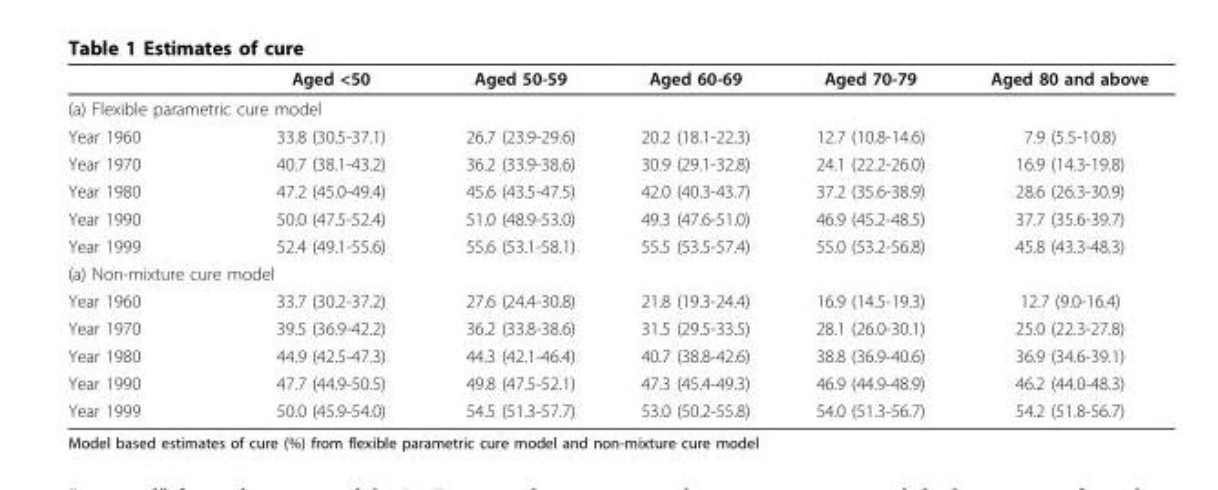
<table><thead><tr><td></td><td>Aged &lt;50</td><td>Aged 50-59</td><td>Aged 60-69</td><td>Aged 70-79</td><td>Aged 80 and above</td></tr></thead><tbody><tr><td colspan="6">(a) Flexible parametric cure model</td></tr><tr><td>Year 1960</td><td>33.8 (30.5-37.1)</td><td>26.7 (23.9-29.6)</td><td>20.2 (18.1-22.3)</td><td>12.7 (10.8-14.6)</td><td>7.9 (5.5-10.8)</td></tr><tr><td>Year 1970</td><td>40.7 (38.1-43.2)</td><td>36.2 (33.9-38.6)</td><td>30.9 (29.1-32.8)</td><td>24.1 (22.2-26.0)</td><td>16.9 (14.3-19.8)</td></tr><tr><td>Year 1980</td><td>47.2 (45.0-49.4)</td><td>45.6 (43.5-47.5)</td><td>42.0 (40.3-43.7)</td><td>37.2 (35.6-38.9)</td><td>28.6 (26.3-30.9)</td></tr><tr><td>Year 1990</td><td>50.0 (47.5-52.4)</td><td>51.0 (48.9-53.0)</td><td>49.3 (47.6-51.0)</td><td>46.9 (45.2-48.5)</td><td>37.7 (35.6-39.7)</td></tr><tr><td>Year 1999</td><td>52.4 (49.1-55.6)</td><td>55.6 (53.1-58.1)</td><td>55.5 (53.5-57.4)</td><td>55.0 (53.2-56.8)</td><td>45.8 (43.3-48.3)</td></tr><tr><td colspan="6">(a) Non-mixture cure model</td></tr><tr><td>Year 1960</td><td>33.7 (30.2-37.2)</td><td>27.6 (24.4-30.8)</td><td>21.8 (19.3-24.4)</td><td>16.9 (14.5-19.3)</td><td>12.7 (9.0-16.4)</td></tr><tr><td>Year 1970</td><td>39.5 (36.9-42.2)</td><td>36.2 (33.8-38.6)</td><td>31.5 (29.5-33.5)</td><td>28.1 (26.0-30.1)</td><td>25.0 (22.3-27.8)</td></tr><tr><td>Year 1980</td><td>44.9 (42.5-47.3)</td><td>44.3 (42.1-46.4)</td><td>40.7 (38.8-42.6)</td><td>38.8 (36.9-40.6)</td><td>36.9 (34.6-39.1)</td></tr><tr><td>Year 1990</td><td>47.7 (44.9-50.5)</td><td>49.8 (47.5-52.1)</td><td>47.3 (45.4-49.3)</td><td>46.9 (44.9-48.9)</td><td>46.2 (44.0-48.3)</td></tr><tr><td>Year 1999</td><td>50.0 (45.9-54.0)</td><td>54.5 (51.3-57.7)</td><td>53.0 (50.2-55.8)</td><td>54.0 (51.3-56.7)</td><td>54.2 (51.8-56.7)</td></tr></tbody></table>